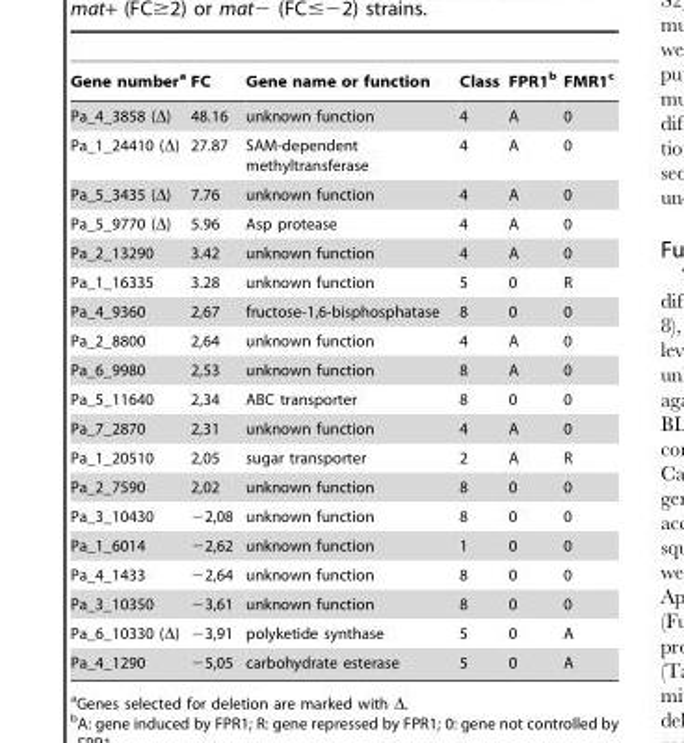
<table><thead><tr><td>Gene number<sup>a</sup></td><td>FC</td><td>Gene name or function</td><td>Class</td><td>FPR1<sup>b</sup></td><td>FMR1<sup>c</sup></td></tr></thead><tbody><tr><td>Pa_4_3858 (Δ)</td><td>48.16</td><td>unknown function</td><td>4</td><td>A</td><td>0</td></tr><tr><td>Pa_1_24410 (Δ)</td><td>27.87</td><td>SAM-dependent methyltransferase</td><td>4</td><td>A</td><td>0</td></tr><tr><td>Pa_5_3435 (Δ)</td><td>7.76</td><td>unknown function</td><td>4</td><td>A</td><td>0</td></tr><tr><td>Pa_5_9770 (Δ)</td><td>5.96</td><td>Asp protease</td><td>4</td><td>A</td><td>0</td></tr><tr><td>Pa_2_13290</td><td>3.42</td><td>unknown function</td><td>4</td><td>A</td><td>0</td></tr><tr><td>Pa_1_16335</td><td>3.28</td><td>unknown function</td><td>5</td><td>0</td><td>R</td></tr><tr><td>Pa_4_9360</td><td>2,67</td><td>fructose-1,6-bisphosphatase</td><td>8</td><td>0</td><td>0</td></tr><tr><td>Pa_2_8800</td><td>2,64</td><td>unknown function</td><td>4</td><td>A</td><td>0</td></tr><tr><td>Pa_6_9980</td><td>2,53</td><td>unknown function</td><td>8</td><td>A</td><td>0</td></tr><tr><td>Pa_5_11640</td><td>2,34</td><td>ABC transporter</td><td>8</td><td>0</td><td>0</td></tr><tr><td>Pa_7_2870</td><td>2,31</td><td>unknown function</td><td>4</td><td>A</td><td>0</td></tr><tr><td>Pa_1_20510</td><td>2,05</td><td>sugar transporter</td><td>2</td><td>A</td><td>R</td></tr><tr><td>Pa_2_7590</td><td>2,02</td><td>unknown function</td><td>8</td><td>0</td><td>0</td></tr><tr><td>Pa_3_10430</td><td>−2,08</td><td>unknown function</td><td>8</td><td>0</td><td>0</td></tr><tr><td>Pa_1_6014</td><td>−2,62</td><td>unknown function</td><td>1</td><td>0</td><td>0</td></tr><tr><td>Pa_4_1433</td><td>−2,64</td><td>unknown function</td><td>8</td><td>0</td><td>0</td></tr><tr><td>Pa_3_10350</td><td>−3,61</td><td>unknown function</td><td>8</td><td>0</td><td>0</td></tr><tr><td>Pa_6_10330 (Δ)</td><td>−3,91</td><td>polyketide synthase</td><td>5</td><td>0</td><td>A</td></tr><tr><td>Pa_4_1290</td><td>−5,05</td><td>carbohydrate esterase</td><td>5</td><td>0</td><td>A</td></tr></tbody></table>